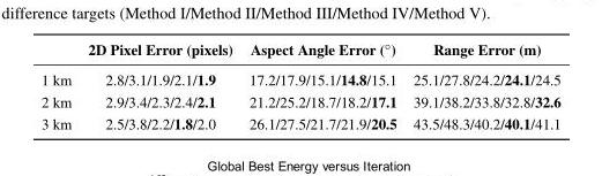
<table><thead><tr><td></td><td>2D Pixel Error (pixels)</td><td>Aspect Angle Error (◦)</td><td>Range Error (m)</td></tr></thead><tbody><tr><td>1 km</td><td>2.8/3.1/1.9/2.1/1.9</td><td>17.2/17.9/15.1/14.8/15.1</td><td>25.1/27.8/24.2/24.1/24.5</td></tr><tr><td>2 km</td><td>2.9/3.4/2.3/2.4/2.1</td><td>21.2/25.2/18.7/18.2/17.1</td><td>39.1/38.2/33.8/32.8/32.6</td></tr><tr><td>3 km</td><td>2.5/3.8/2.2/1.8/2.0</td><td>26.1/27.5/21.7/21.9/20.5</td><td>43.5/48.3/40.2/40.1/41.1</td></tr></tbody></table>